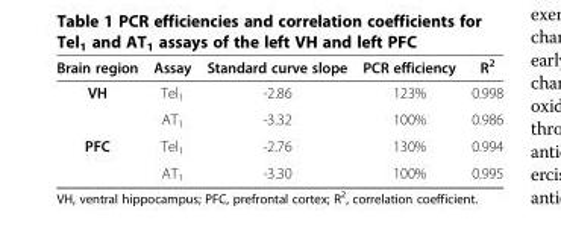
<table><thead><tr><td>Brain region</td><td>Assay</td><td>Standard curve slope</td><td>PCR efficiency</td><td>R<sup>2</sup></td></tr></thead><tbody><tr><td rowspan="2">VH</td><td>Tel<sub>1</sub></td><td>-2.86</td><td>123%</td><td>0.998</td></tr><tr><td>AT<sub>1</sub></td><td>-3.32</td><td>100%</td><td>0.986</td></tr><tr><td rowspan="2">PFC</td><td>Tel<sub>1</sub></td><td>-2.76</td><td>130%</td><td>0.994</td></tr><tr><td>AT<sub>1</sub></td><td>-3.30</td><td>100%</td><td>0.995</td></tr></tbody></table>